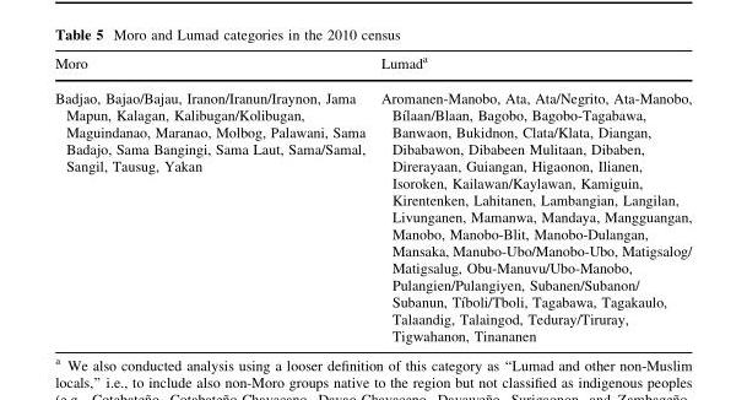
<table><thead><tr><td>Moro</td><td>Lumad<sup>a</sup></td></tr></thead><tbody><tr><td>Badjao, Bajao/Bajau, Iranon/Iranun/Iraynon, Jama Mapun, Kalagan, Kalibugan/Kolibugan, Maguindanao, Maranao, Molbog, Palawani, Sama Badajo, Sama Bangingi, Sama Laut, Sama/Samal, Sangil, Tausug, Yakan</td><td>Aromanen-Manobo, Ata, Ata/Negrito, Ata-Manobo, Bı´laan/Blaan, Bagobo, Bagobo-Tagabawa, Banwaon, Bukidnon, Clata/Klata, Diangan, Dibabawon, Dibabeen Mulitaan, Dibaben, Direrayaan, Guiangan, Higaonon, Ilianen, Isoroken, Kailawan/Kaylawan, Kamiguin, Kirentenken, Lahitanen, Lambangian, Langilan, Livunganen, Mamanwa, Mandaya, Mangguangan, Manobo, Manobo-Blit, Manobo-Dulangan, Mansaka, Manubo-Ubo/Manobo-Ubo, Matigsalog/ Matigsalug, Obu-Manuvu/Ubo-Manobo, Pulangien/Pulangiyen, Subanen/Subanon/ Subanun, Tı´boli/Tboli, Tagabawa, Tagakaulo, Talaandig, Talaingod, Teduray/Tiruray, Tigwahanon, Tinananen</td></tr></tbody></table>